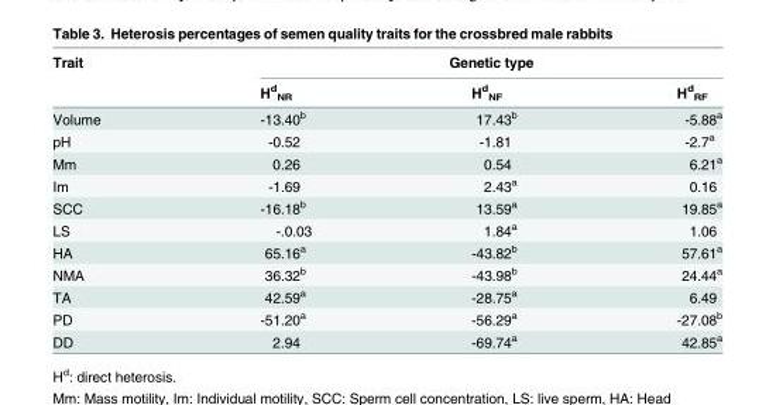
<table><thead><tr><td rowspan="2">Trait</td><td colspan="3">Genetic type</td></tr><tr><td>H<sup>d</sup> <sub>NR</sub></td><td>H<sup>d</sup> <sub>NF</sub></td><td>H<sup>d</sup> <sub>RF</sub></td></tr></thead><tbody><tr><td>Volume</td><td>-13.40<sup>b</sup></td><td>17.43<sup>b</sup></td><td>-5.88<sup>a</sup></td></tr><tr><td>pH</td><td>-0.52</td><td>-1.81</td><td>-2.7<sup>a</sup></td></tr><tr><td>Mm</td><td>0.26</td><td>0.54</td><td>6.21<sup>a</sup></td></tr><tr><td>Im</td><td>-1.69</td><td>2.43<sup>a</sup></td><td>0.16</td></tr><tr><td>SCC</td><td>-16.18<sup>b</sup></td><td>13.59<sup>a</sup></td><td>19.85<sup>a</sup></td></tr><tr><td>LS</td><td>-.0.03</td><td>1.84<sup>a</sup></td><td>1.06</td></tr><tr><td>HA</td><td>65.16<sup>a</sup></td><td>-43.82<sup>b</sup></td><td>57.61<sup>a</sup></td></tr><tr><td>NMA</td><td>36.32<sup>b</sup></td><td>-43.98<sup>b</sup></td><td>24.44<sup>a</sup></td></tr><tr><td>TA</td><td>42.59<sup>a</sup></td><td>-28.75<sup>a</sup></td><td>6.49</td></tr><tr><td>PD</td><td>-51.20<sup>a</sup></td><td>-56.29<sup>a</sup></td><td>-27.08<sup>b</sup></td></tr><tr><td>DD</td><td>2.94</td><td>-69.74<sup>a</sup></td><td>42.85<sup>a</sup></td></tr></tbody></table>